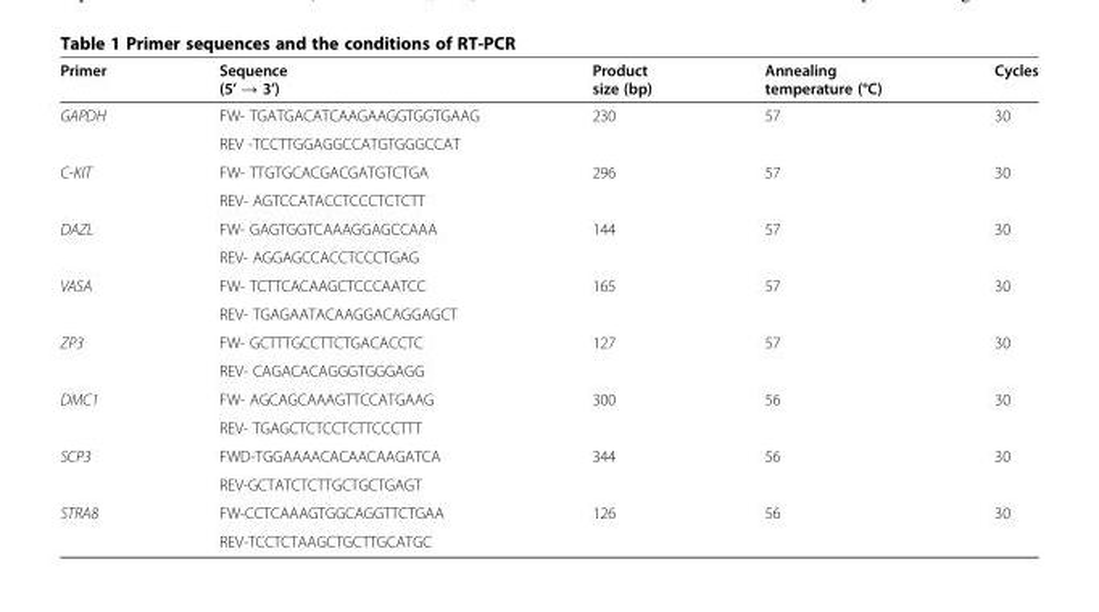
<table><thead><tr><td>Primer</td><td>Sequence (5’ → 3’)</td><td>Product size (bp)</td><td>Annealing temperature (°C)</td><td>Cycles</td></tr></thead><tbody><tr><td rowspan="2">GAPDH</td><td>FW- TGATGACATCAAGAAGGTGGTGAAG</td><td>230</td><td>57</td><td>30</td></tr><tr><td>REV -TCCTTGGAGGCCATGTGGGCCAT</td><td></td><td></td><td></td></tr><tr><td rowspan="2">C-KIT</td><td>FW- TTGTGCACGACGATGTCTGA</td><td>296</td><td>57</td><td>30</td></tr><tr><td>REV- AGTCCATACCTCCCTCTCTT</td><td></td><td></td><td></td></tr><tr><td rowspan="2">DAZL</td><td>FW- GAGTGGTCAAAGGAGCCAAA</td><td>144</td><td>57</td><td>30</td></tr><tr><td>REV- AGGAGCCACCTCCCTGAG</td><td></td><td></td><td></td></tr><tr><td rowspan="2">VASA</td><td>FW- TCTTCACAAGCTCCCAATCC</td><td>165</td><td>57</td><td>30</td></tr><tr><td>REV- TGAGAATACAAGGACAGGAGCT</td><td></td><td></td><td></td></tr><tr><td rowspan="2">ZP3</td><td>FW- GCTTTGCCTTCTGACACCTC</td><td>127</td><td>57</td><td>30</td></tr><tr><td>REV- CAGACACAGGGTGGGAGG</td><td></td><td></td><td></td></tr><tr><td rowspan="2">DMC1</td><td>FW- AGCAGCAAAGTTCCATGAAG</td><td>300</td><td>56</td><td>30</td></tr><tr><td>REV- TGAGCTCTCCTCTTCCCTTT</td><td></td><td></td><td></td></tr><tr><td rowspan="2">SCP3</td><td>FWD-TGGAAAACACAACAAGATCA</td><td>344</td><td>56</td><td>30</td></tr><tr><td>REV-GCTATCTCTTGCTGCTGAGT</td><td></td><td></td><td></td></tr><tr><td rowspan="2">STRA8</td><td>FW-CCTCAAAGTGGCAGGTTCTGAA</td><td>126</td><td>56</td><td>30</td></tr><tr><td>REV-TCCTCTAAGCTGCTTGCATGC</td><td></td><td></td><td></td></tr></tbody></table>